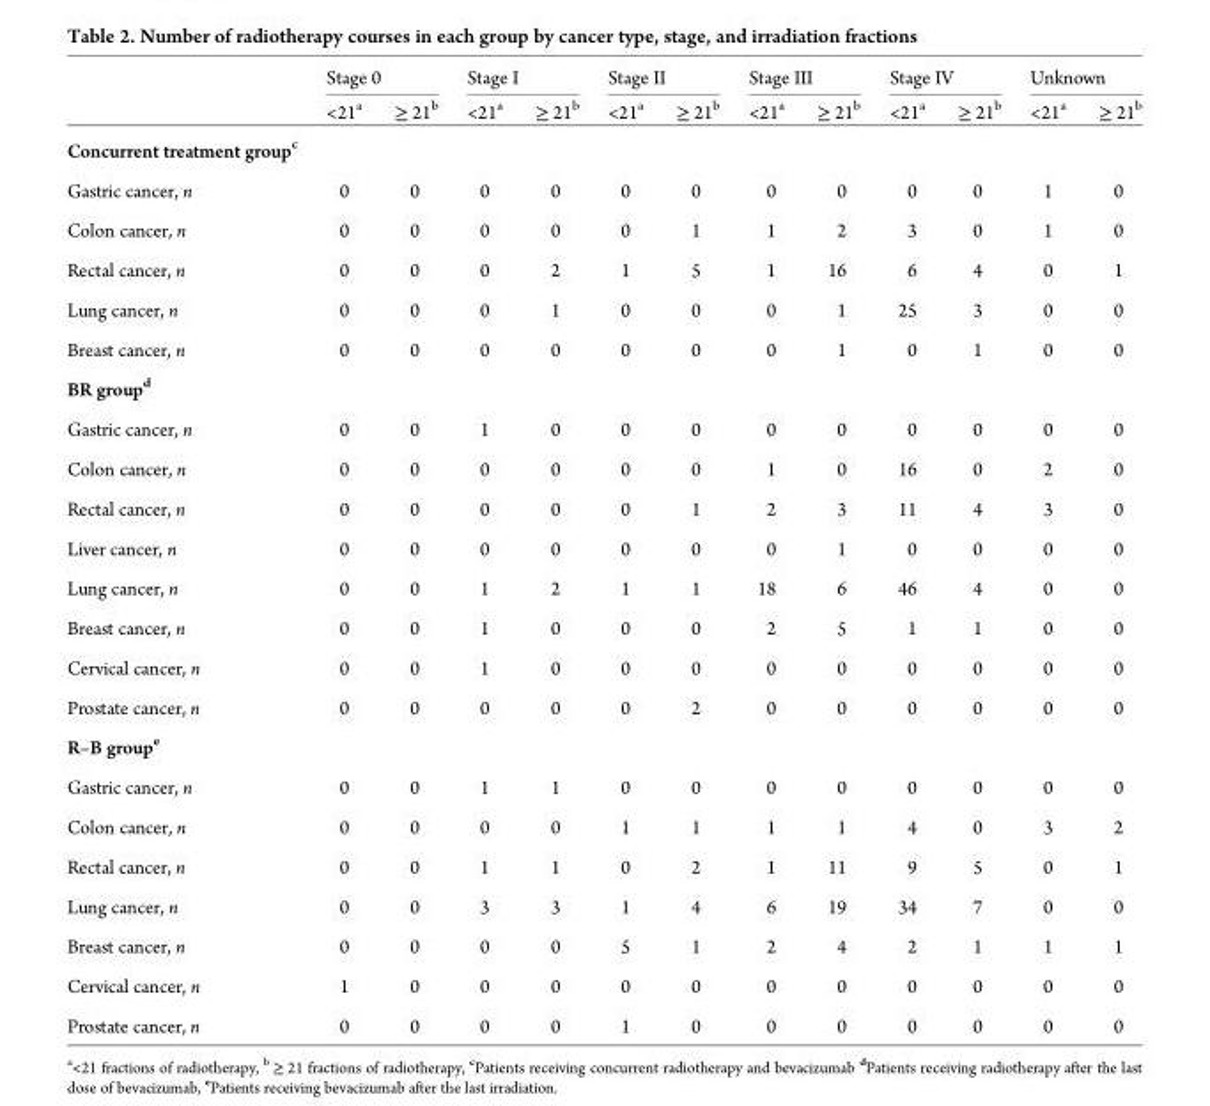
<table><thead><tr><td rowspan="2"></td><td colspan="2">Stage 0</td><td colspan="2">Stage I</td><td colspan="2">Stage II</td><td colspan="2">Stage III</td><td colspan="2">Stage IV</td><td colspan="2">Unknown</td></tr><tr><td>&lt;21<sup>a</sup></td><td>≥ 21<sup>b</sup></td><td>&lt;21<sup>a</sup></td><td>≥ 21<sup>b</sup></td><td>&lt;21<sup>a</sup></td><td>≥ 21<sup>b</sup></td><td>&lt;21<sup>a</sup></td><td>≥ 21<sup>b</sup></td><td>&lt;21<sup>a</sup></td><td>≥ 21<sup>b</sup></td><td>&lt;21<sup>a</sup></td><td>≥ 21<sup>b</sup></td></tr></thead><tbody><tr><td colspan="13">Concurrent treatment group<sup>c</sup></td></tr><tr><td>Gastric cancer, n</td><td>0</td><td>0</td><td>0</td><td>0</td><td>0</td><td>0</td><td>0</td><td>0</td><td>0</td><td>0</td><td>1</td><td>0</td></tr><tr><td>Colon cancer, n</td><td>0</td><td>0</td><td>0</td><td>0</td><td>0</td><td>1</td><td>1</td><td>2</td><td>3</td><td>0</td><td>1</td><td>0</td></tr><tr><td>Rectal cancer, n</td><td>0</td><td>0</td><td>0</td><td>2</td><td>1</td><td>5</td><td>1</td><td>16</td><td>6</td><td>4</td><td>0</td><td>1</td></tr><tr><td>Lung cancer, n</td><td>0</td><td>0</td><td>0</td><td>1</td><td>0</td><td>0</td><td>0</td><td>1</td><td>25</td><td>3</td><td>0</td><td>0</td></tr><tr><td>Breast cancer, n</td><td>0</td><td>0</td><td>0</td><td>0</td><td>0</td><td>0</td><td>0</td><td>1</td><td>0</td><td>1</td><td>0</td><td>0</td></tr><tr><td colspan="13">BR group<sup>d</sup></td></tr><tr><td>Gastric cancer, n</td><td>0</td><td>0</td><td>1</td><td>0</td><td>0</td><td>0</td><td>0</td><td>0</td><td>0</td><td>0</td><td>0</td><td>0</td></tr><tr><td>Colon cancer, n</td><td>0</td><td>0</td><td>0</td><td>0</td><td>0</td><td>0</td><td>1</td><td>0</td><td>16</td><td>0</td><td>2</td><td>0</td></tr><tr><td>Rectal cancer, n</td><td>0</td><td>0</td><td>0</td><td>0</td><td>0</td><td>1</td><td>2</td><td>3</td><td>11</td><td>4</td><td>3</td><td>0</td></tr><tr><td>Liver cancer, n</td><td>0</td><td>0</td><td>0</td><td>0</td><td>0</td><td>0</td><td>0</td><td>1</td><td>0</td><td>0</td><td>0</td><td>0</td></tr><tr><td>Lung cancer, n</td><td>0</td><td>0</td><td>1</td><td>2</td><td>1</td><td>1</td><td>18</td><td>6</td><td>46</td><td>4</td><td>0</td><td>0</td></tr><tr><td>Breast cancer, n</td><td>0</td><td>0</td><td>1</td><td>0</td><td>0</td><td>0</td><td>2</td><td>5</td><td>1</td><td>1</td><td>0</td><td>0</td></tr><tr><td>Cervical cancer, n</td><td>0</td><td>0</td><td>1</td><td>0</td><td>0</td><td>0</td><td>0</td><td>0</td><td>0</td><td>0</td><td>0</td><td>0</td></tr><tr><td>Prostate cancer, n</td><td>0</td><td>0</td><td>0</td><td>0</td><td>0</td><td>2</td><td>0</td><td>0</td><td>0</td><td>0</td><td>0</td><td>0</td></tr><tr><td colspan="13">R–B group<sup>e</sup></td></tr><tr><td>Gastric cancer, n</td><td>0</td><td>0</td><td>1</td><td>1</td><td>0</td><td>0</td><td>0</td><td>0</td><td>0</td><td>0</td><td>0</td><td>0</td></tr><tr><td>Colon cancer, n</td><td>0</td><td>0</td><td>0</td><td>0</td><td>1</td><td>1</td><td>1</td><td>1</td><td>4</td><td>0</td><td>3</td><td>2</td></tr><tr><td>Rectal cancer, n</td><td>0</td><td>0</td><td>1</td><td>1</td><td>0</td><td>2</td><td>1</td><td>11</td><td>9</td><td>5</td><td>0</td><td>1</td></tr><tr><td>Lung cancer, n</td><td>0</td><td>0</td><td>3</td><td>3</td><td>1</td><td>4</td><td>6</td><td>19</td><td>34</td><td>7</td><td>0</td><td>0</td></tr><tr><td>Breast cancer, n</td><td>0</td><td>0</td><td>0</td><td>0</td><td>5</td><td>1</td><td>2</td><td>4</td><td>2</td><td>1</td><td>1</td><td>1</td></tr><tr><td>Cervical cancer, n</td><td>1</td><td>0</td><td>0</td><td>0</td><td>0</td><td>0</td><td>0</td><td>0</td><td>0</td><td>0</td><td>0</td><td>0</td></tr><tr><td>Prostate cancer, n</td><td>0</td><td>0</td><td>0</td><td>0</td><td>1</td><td>0</td><td>0</td><td>0</td><td>0</td><td>0</td><td>0</td><td>0</td></tr></tbody></table>